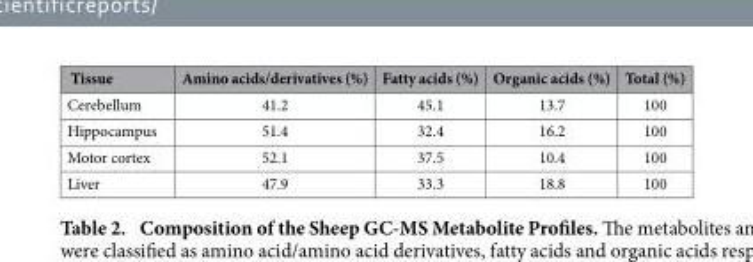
<table><thead><tr><td>Tissue</td><td>Amino acids/derivatives (%)</td><td>Fatty acids (%)</td><td>Organic acids (%)</td><td>Total (%)</td></tr></thead><tbody><tr><td>Cerebellum</td><td>41.2</td><td>45.1</td><td>13.7</td><td>100</td></tr><tr><td>Hippocampus</td><td>51.4</td><td>32.4</td><td>16.2</td><td>100</td></tr><tr><td>Motor cortex</td><td>52.1</td><td>37.5</td><td>10.4</td><td>100</td></tr><tr><td>Liver</td><td>47.9</td><td>33.3</td><td>18.8</td><td>100</td></tr></tbody></table>